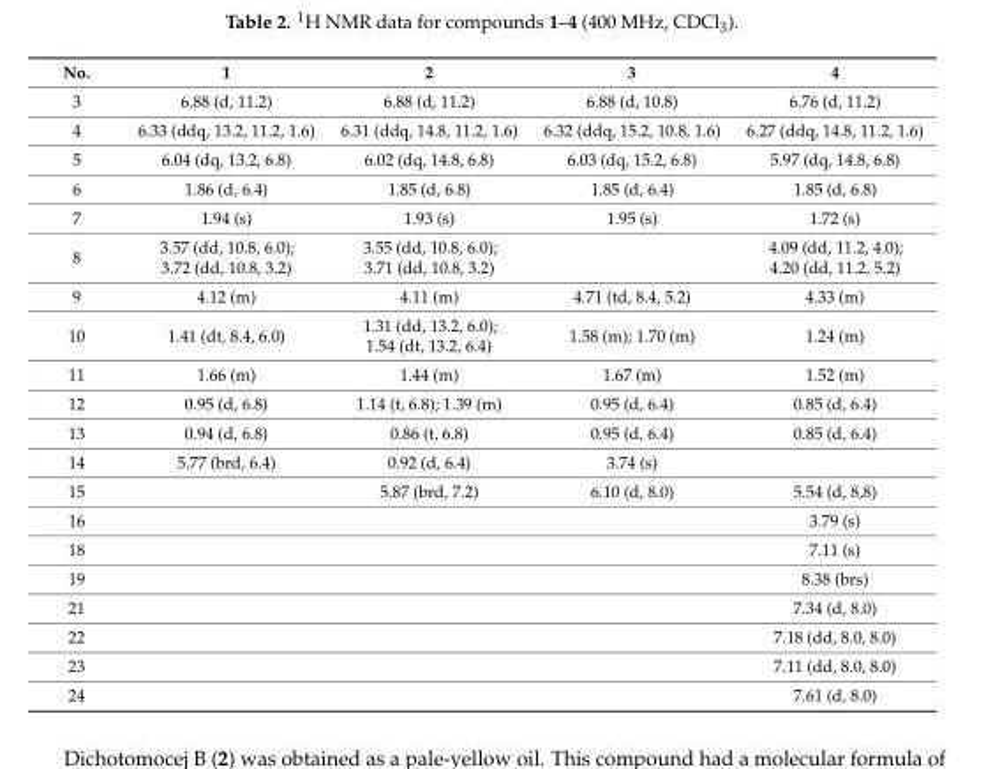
<table><thead><tr><td>No.</td><td>1</td><td>2</td><td>3</td><td>4</td></tr></thead><tbody><tr><td>3</td><td>6.88 (d, 11.2)</td><td>6.88 (d, 11.2)</td><td>6.88 (d, 10.8)</td><td>6.76 (d, 11.2)</td></tr><tr><td>4</td><td>6.33 (ddq, 13.2, 11.2, 1.6)</td><td>6.31 (ddq, 14.8, 11.2, 1.6)</td><td>6.32 (ddq, 15.2, 10.8, 1.6)</td><td>6.27 (ddq, 14.8, 11.2, 1.6)</td></tr><tr><td>5</td><td>6.04 (dq, 13.2, 6.8)</td><td>6.02 (dq, 14.8, 6.8)</td><td>6.03 (dq, 15.2, 6.8)</td><td>5.97 (dq, 14.8, 6.8)</td></tr><tr><td>6</td><td>1.86 (d, 6.4)</td><td>1.85 (d, 6.8)</td><td>1.85 (d, 6.4)</td><td>1.85 (d, 6.8)</td></tr><tr><td>7</td><td>1.94 (s)</td><td>1.93 (s)</td><td>1.95 (s)</td><td>1.72 (s)</td></tr><tr><td>8</td><td>3.57 (dd, 10.8, 6.0); 3.72 (dd, 10.8, 3.2)</td><td>3.55 (dd, 10.8, 6.0); 3.71 (dd, 10.8, 3.2)</td><td></td><td>4.09 (dd, 11.2, 4.0); 4.20 (dd, 11.2, 5.2)</td></tr><tr><td>9</td><td>4.12 (m)</td><td>4.11 (m)</td><td>4.71 (td, 8.4, 5.2)</td><td>4.33 (m)</td></tr><tr><td>10</td><td>1.41 (dt, 8.4, 6.0)</td><td>1.31 (dd, 13.2, 6.0); 1.54 (dt, 13.2, 6.4)</td><td>1.58 (m); 1.70 (m)</td><td>1.24 (m)</td></tr><tr><td>11</td><td>1.66 (m)</td><td>1.44 (m)</td><td>1.67 (m)</td><td>1.52 (m)</td></tr><tr><td>12</td><td>0.95 (d, 6.8)</td><td>1.14 (t, 6.8); 1.39 (m)</td><td>0.95 (d, 6.4)</td><td>0.85 (d, 6.4)</td></tr><tr><td>13</td><td>0.94 (d, 6.8)</td><td>0.86 (t, 6.8)</td><td>0.95 (d, 6.4)</td><td>0.85 (d, 6.4)</td></tr><tr><td>14</td><td>5.77 (brd, 6.4)</td><td>0.92 (d, 6.4)</td><td>3.74 (s)</td><td></td></tr><tr><td>15</td><td></td><td>5.87 (brd, 7.2)</td><td>6.10 (d, 8.0)</td><td>5.54 (d, 8,8)</td></tr><tr><td>16</td><td></td><td></td><td></td><td>3.79 (s)</td></tr><tr><td>18</td><td></td><td></td><td></td><td>7.11 (s)</td></tr><tr><td>19</td><td></td><td></td><td></td><td>8.38 (brs)</td></tr><tr><td>21</td><td></td><td></td><td></td><td>7.34 (d, 8.0)</td></tr><tr><td>22</td><td></td><td></td><td></td><td>7.18 (dd, 8.0, 8.0)</td></tr><tr><td>23</td><td></td><td></td><td></td><td>7.11 (dd, 8.0, 8.0)</td></tr><tr><td>24</td><td></td><td></td><td></td><td>7.61 (d, 8.0)</td></tr></tbody></table>